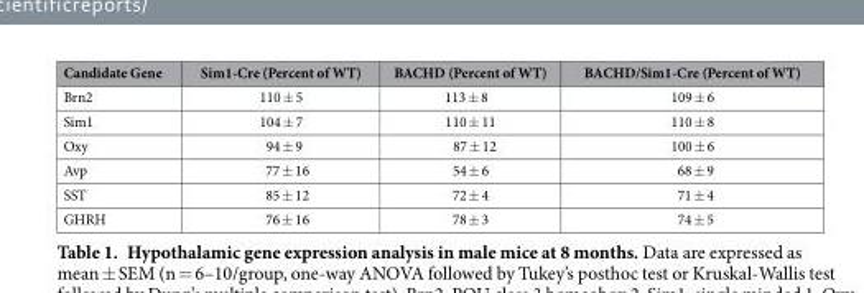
<table><thead><tr><td>Candidate Gene</td><td>Sim1-Cre (Percent of WT)</td><td>BACHD (Percent of WT)</td><td>BACHD/Sim1-Cre (Percent of WT)</td></tr></thead><tbody><tr><td>Brn2</td><td>110 ± 5</td><td>113 ± 8</td><td>109 ± 6</td></tr><tr><td>Sim1</td><td>104 ± 7</td><td>110 ± 11</td><td>110 ± 8</td></tr><tr><td>Oxy</td><td>94 ± 9</td><td>87 ± 12</td><td>100 ± 6</td></tr><tr><td>Avp</td><td>77 ± 16</td><td>54 ± 6</td><td>68 ± 9</td></tr><tr><td>SST</td><td>85 ± 12</td><td>72 ± 4</td><td>71 ± 4</td></tr><tr><td>GHRH</td><td>76 ± 16</td><td>78 ± 3</td><td>74 ± 5</td></tr></tbody></table>